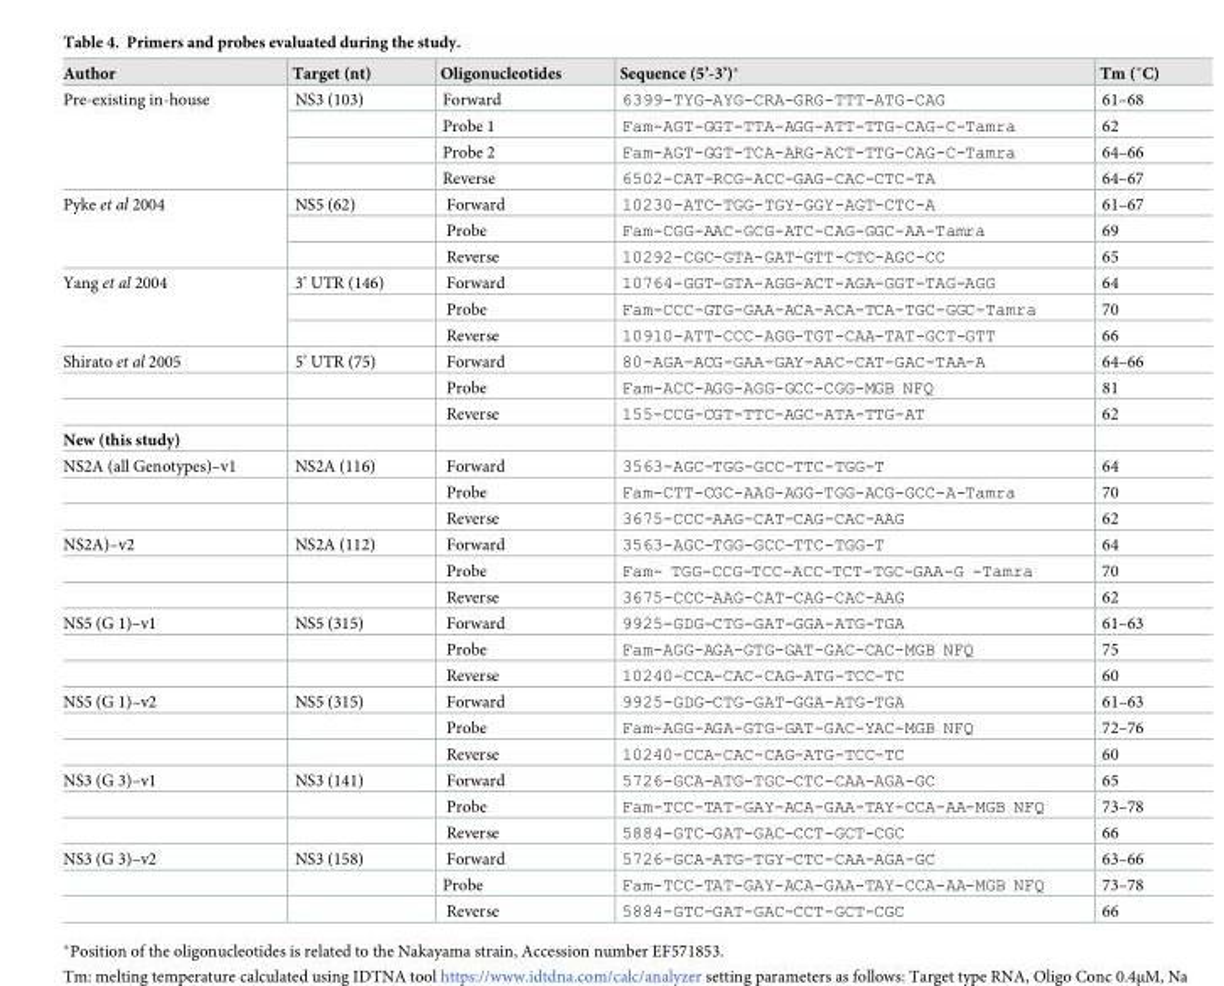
<table><thead><tr><td>Author</td><td>Target (nt)</td><td>Oligonucleotides</td><td>Sequence (5’-3’)*</td><td>Tm (˚C)</td></tr></thead><tbody><tr><td rowspan="4">Pre-existing in-house</td><td>NS3 (103)</td><td>Forward</td><td>6399-TYG-AYG-CRA-GRG-TTT-ATG-CAG</td><td>61–68</td></tr><tr><td></td><td>Probe 1</td><td>Fam-AGT-GGT-TTA-AGG-ATT-TTG-CAG-C-Tamra</td><td>62</td></tr><tr><td></td><td>Probe 2</td><td>Fam-AGT-GGT-TCA-ARG-ACT-TTG-CAG-C-Tamra</td><td>64–66</td></tr><tr><td></td><td>Reverse</td><td>6502-CAT-RCG-ACC-GAG-CAC-CTC-TA</td><td>64–67</td></tr><tr><td rowspan="3">Pyke et al 2004</td><td>NS5 (62)</td><td>Forward</td><td>10230-ATC-TGG-TGY-GGY-AGT-CTC-A</td><td>61–67</td></tr><tr><td></td><td>Probe</td><td>Fam-CGG-AAC-GCG-ATC-CAG-GGC-AA-Tamra</td><td>69</td></tr><tr><td></td><td>Reverse</td><td>10292-CGC-GTA-GAT-GTT-CTC-AGC-CC</td><td>65</td></tr><tr><td rowspan="3">Yang et al 2004</td><td>3’ UTR (146)</td><td>Forward</td><td>10764-GGT-GTA-AGG-ACT-AGA-GGT-TAG-AGG</td><td>64</td></tr><tr><td></td><td>Probe</td><td>Fam-CCC-GTG-GAA-ACA-ACA-TCA-TGC-GGC-Tamra</td><td>70</td></tr><tr><td></td><td>Reverse</td><td>10910-ATT-CCC-AGG-TGT-CAA-TAT-GCT-GTT</td><td>66</td></tr><tr><td rowspan="3">Shirato et al 2005</td><td>5’ UTR (75)</td><td>Forward</td><td>80-AGA-ACG-GAA-GAY-AAC-CAT-GAC-TAA-A</td><td>64–66</td></tr><tr><td></td><td>Probe</td><td>Fam-ACC-AGG-AGG-GCC-CGG-MGB NFQ</td><td>81</td></tr><tr><td></td><td>Reverse</td><td>155-CCG-CGT-TTC-AGC-ATA-TTG-AT</td><td>62</td></tr><tr><td colspan="5">New (this study)</td></tr><tr><td rowspan="3">NS2A (all Genotypes)–v1</td><td>NS2A (116)</td><td>Forward</td><td>3563-AGC-TGG-GCC-TTC-TGG-T</td><td>64</td></tr><tr><td></td><td>Probe</td><td>Fam-CTT-CGC-AAG-AGG-TGG-ACG-GCC-A-Tamra</td><td>70</td></tr><tr><td></td><td>Reverse</td><td>3675-CCC-AAG-CAT-CAG-CAC-AAG</td><td>62</td></tr><tr><td rowspan="3">NS2A)–v2</td><td>NS2A (112)</td><td>Forward</td><td>3563-AGC-TGG-GCC-TTC-TGG-T</td><td>64</td></tr><tr><td></td><td>Probe</td><td>Fam- TGG-CCG-TCC-ACC-TCT-TGC-GAA-G -Tamra</td><td>70</td></tr><tr><td></td><td>Reverse</td><td>3675-CCC-AAG-CAT-CAG-CAC-AAG</td><td>62</td></tr><tr><td rowspan="3">NS5 (G 1)–v1</td><td>NS5 (315)</td><td>Forward</td><td>9925-GDG-CTG-GAT-GGA-ATG-TGA</td><td>61–63</td></tr><tr><td></td><td>Probe</td><td>Fam-AGG-AGA-GTG-GAT-GAC-CAC-MGB NFQ</td><td>75</td></tr><tr><td></td><td>Reverse</td><td>10240-CCA-CAC-CAG-ATG-TCC-TC</td><td>60</td></tr><tr><td rowspan="3">NS5 (G 1)–v2</td><td>NS5 (315)</td><td>Forward</td><td>9925-GDG-CTG-GAT-GGA-ATG-TGA</td><td>61–63</td></tr><tr><td></td><td>Probe</td><td>Fam-AGG-AGA-GTG-GAT-GAC-YAC-MGB NFQ</td><td>72–76</td></tr><tr><td></td><td>Reverse</td><td>10240-CCA-CAC-CAG-ATG-TCC-TC</td><td>60</td></tr><tr><td rowspan="3">NS3 (G 3)–v1</td><td>NS3 (141)</td><td>Forward</td><td>5726-GCA-ATG-TGC-CTC-CAA-AGA-GC</td><td>65</td></tr><tr><td></td><td>Probe</td><td>Fam-TCC-TAT-GAY-ACA-GAA-TAY-CCA-AA-MGB NFQ</td><td>73–78</td></tr><tr><td></td><td>Reverse</td><td>5884-GTC-GAT-GAC-CCT-GCT-CGC</td><td>66</td></tr><tr><td rowspan="3">NS3 (G 3)–v2</td><td>NS3 (158)</td><td>Forward</td><td>5726-GCA-ATG-TGY-CTC-CAA-AGA-GC</td><td>63–66</td></tr><tr><td></td><td>Probe</td><td>Fam-TCC-TAT-GAY-ACA-GAA-TAY-CCA-AA-MGB NFQ</td><td>73–78</td></tr><tr><td></td><td>Reverse</td><td>5884-GTC-GAT-GAC-CCT-GCT-CGC</td><td>66</td></tr></tbody></table>